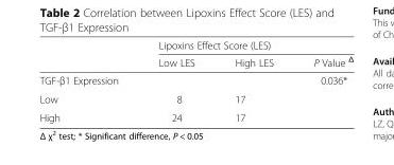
<table><thead><tr><td rowspan="2"></td><td colspan="3">Lipoxins Effect Score (LES)</td></tr><tr><td>Low LES</td><td>High LES</td><td>P Value <sup>Δ</sup></td></tr></thead><tbody><tr><td>TGF-β1 Expression</td><td></td><td></td><td>0.036*</td></tr><tr><td>Low</td><td>8</td><td>17</td><td></td></tr><tr><td>High</td><td>24</td><td>17</td><td></td></tr></tbody></table>